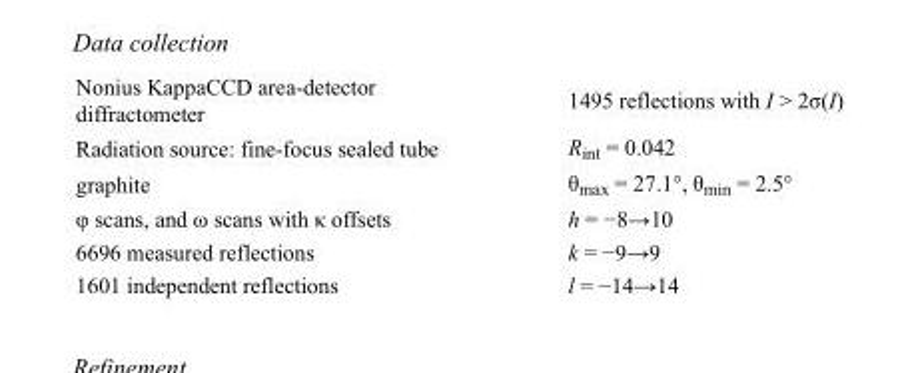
<table><tbody><tr><td>Nonius KappaCCD area-detector diffractometer</td><td>1495 reflections with I &gt; 2σ(I)</td></tr><tr><td>Radiation source: fine-focus sealed tube</td><td>R<sub>int</sub> = 0.042</td></tr><tr><td>graphite</td><td>θ<sub>max</sub> = 27.1°, θ<sub>min</sub> = 2.5°</td></tr><tr><td>φ scans, and ω scans with κ offsets</td><td>h = −8→10</td></tr><tr><td>6696 measured reflections</td><td>k = −9→9</td></tr><tr><td>1601 independent reflections</td><td>l = −14→14</td></tr></tbody></table>